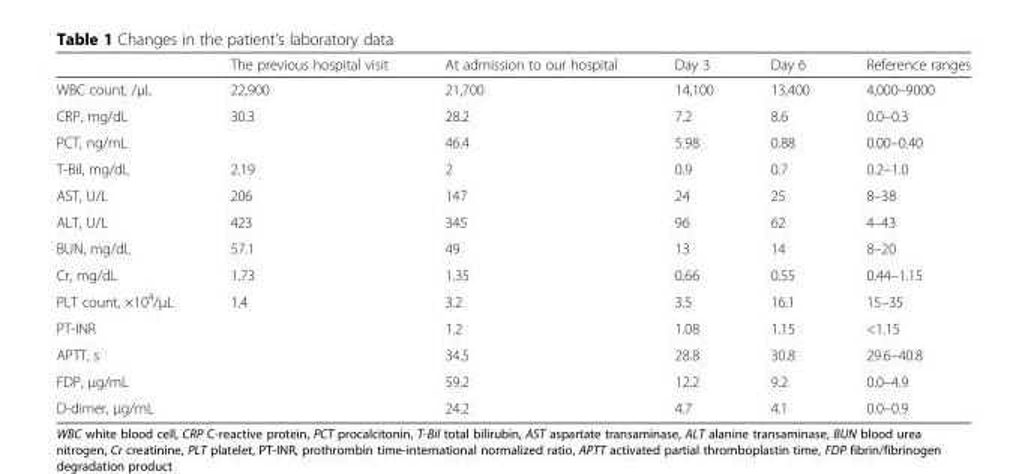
<table><thead><tr><td></td><td>The previous hospital visit</td><td>At admission to our hospital</td><td>Day 3</td><td>Day 6</td><td>Reference ranges</td></tr></thead><tbody><tr><td>WBC count, /μL</td><td>22,900</td><td>21,700</td><td>14,100</td><td>13,400</td><td>4,000–9000</td></tr><tr><td>CRP, mg/dL</td><td>30.3</td><td>28.2</td><td>7.2</td><td>8.6</td><td>0.0–0.3</td></tr><tr><td>PCT, ng/mL</td><td></td><td>46.4</td><td>5.98</td><td>0.88</td><td>0.00–0.40</td></tr><tr><td>T-Bil, mg/dL</td><td>2.19</td><td>2</td><td>0.9</td><td>0.7</td><td>0.2–1.0</td></tr><tr><td>AST, U/L</td><td>206</td><td>147</td><td>24</td><td>25</td><td>8–38</td></tr><tr><td>ALT, U/L</td><td>423</td><td>345</td><td>96</td><td>62</td><td>4–43</td></tr><tr><td>BUN, mg/dL</td><td>57.1</td><td>49</td><td>13</td><td>14</td><td>8–20</td></tr><tr><td>Cr, mg/dL</td><td>1.73</td><td>1.35</td><td>0.66</td><td>0.55</td><td>0.44–1.15</td></tr><tr><td>PLT count, ×10<sup>4</sup>/μL</td><td>1.4</td><td>3.2</td><td>3.5</td><td>16.1</td><td>15–35</td></tr><tr><td>PT-INR</td><td></td><td>1.2</td><td>1.08</td><td>1.15</td><td>&lt;1.15</td></tr><tr><td>APTT, s</td><td></td><td>34.5</td><td>28.8</td><td>30.8</td><td>29.6–40.8</td></tr><tr><td>FDP, μg/mL</td><td></td><td>59.2</td><td>12.2</td><td>9.2</td><td>0.0–4.9</td></tr><tr><td>D-dimer, μg/mL</td><td></td><td>24.2</td><td>4.7</td><td>4.1</td><td>0.0–0.9</td></tr></tbody></table>